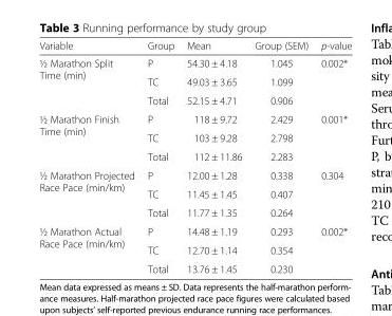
<table><thead><tr><td>Variable</td><td>Group</td><td>Mean</td><td>Group (SEM)</td><td>p-value</td></tr></thead><tbody><tr><td rowspan="3">½ Marathon Split Time (min)</td><td>P</td><td>54.30 ± 4.18</td><td>1.045</td><td>0.002*</td></tr><tr><td>TC</td><td>49.03 ± 3.65</td><td>1.099</td><td></td></tr><tr><td>Total</td><td>52.15 ± 4.71</td><td>0.906</td><td></td></tr><tr><td rowspan="3">½ Marathon Finish Time (min)</td><td>P</td><td>118 ± 9.72</td><td>2.429</td><td>0.001*</td></tr><tr><td>TC</td><td>103 ± 9.28</td><td>2.798</td><td></td></tr><tr><td>Total</td><td>112 ± 11.86</td><td>2.283</td><td></td></tr><tr><td rowspan="3">½ Marathon Projected Race Pace (min/km)</td><td>P</td><td>12.00 ± 1.28</td><td>0.338</td><td>0.304</td></tr><tr><td>TC</td><td>11.45 ± 1.45</td><td>0.407</td><td></td></tr><tr><td>Total</td><td>11.77 ± 1.35</td><td>0.264</td><td></td></tr><tr><td rowspan="3">½ Marathon Actual Race Pace (min/km)</td><td>P</td><td>14.48 ± 1.19</td><td>0.293</td><td>0.002*</td></tr><tr><td>TC</td><td>12.70 ± 1.14</td><td>0.354</td><td></td></tr><tr><td>Total</td><td>13.76 ± 1.45</td><td>0.230</td><td></td></tr></tbody></table>